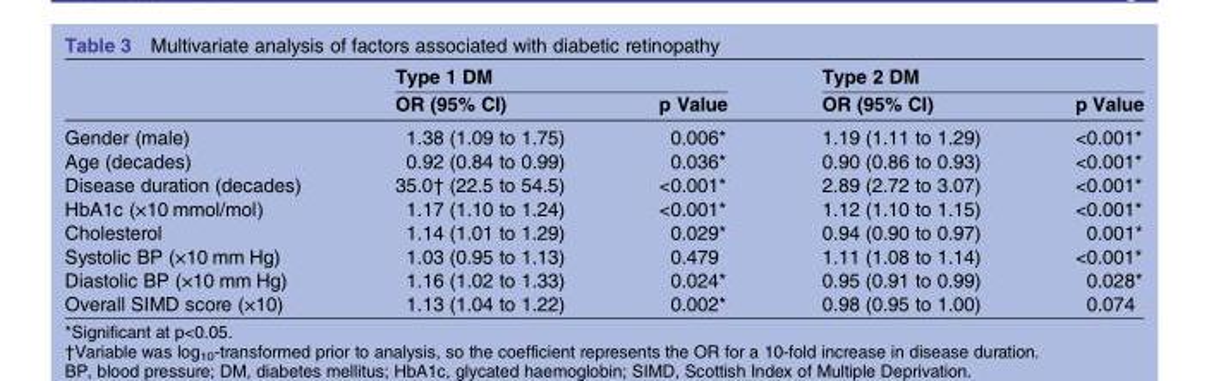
<table><thead><tr><td rowspan="2"></td><td colspan="2">Type 1 DM</td><td colspan="2">Type 2 DM</td></tr><tr><td>OR (95% CI)</td><td>p Value</td><td>OR (95% CI)</td><td>p Value</td></tr></thead><tbody><tr><td>Gender (male)</td><td>1.38 (1.09 to 1.75)</td><td>0.006*</td><td>1.19 (1.11 to 1.29)</td><td>&lt;0.001*</td></tr><tr><td>Age (decades)</td><td>0.92 (0.84 to 0.99)</td><td>0.036*</td><td>0.90 (0.86 to 0.93)</td><td>&lt;0.001*</td></tr><tr><td>Disease duration (decades)</td><td>35.0† (22.5 to 54.5)</td><td>&lt;0.001*</td><td>2.89 (2.72 to 3.07)</td><td>&lt;0.001*</td></tr><tr><td>HbA1c (×10 mmol/mol)</td><td>1.17 (1.10 to 1.24)</td><td>&lt;0.001*</td><td>1.12 (1.10 to 1.15)</td><td>&lt;0.001*</td></tr><tr><td>Cholesterol</td><td>1.14 (1.01 to 1.29)</td><td>0.029*</td><td>0.94 (0.90 to 0.97)</td><td>0.001*</td></tr><tr><td>Systolic BP (×10 mm Hg)</td><td>1.03 (0.95 to 1.13)</td><td>0.479</td><td>1.11 (1.08 to 1.14)</td><td>&lt;0.001*</td></tr><tr><td>Diastolic BP (×10 mm Hg)</td><td>1.16 (1.02 to 1.33)</td><td>0.024*</td><td>0.95 (0.91 to 0.99)</td><td>0.028*</td></tr><tr><td>Overall SIMD score (×10)</td><td>1.13 (1.04 to 1.22)</td><td>0.002*</td><td>0.98 (0.95 to 1.00)</td><td>0.074</td></tr></tbody></table>